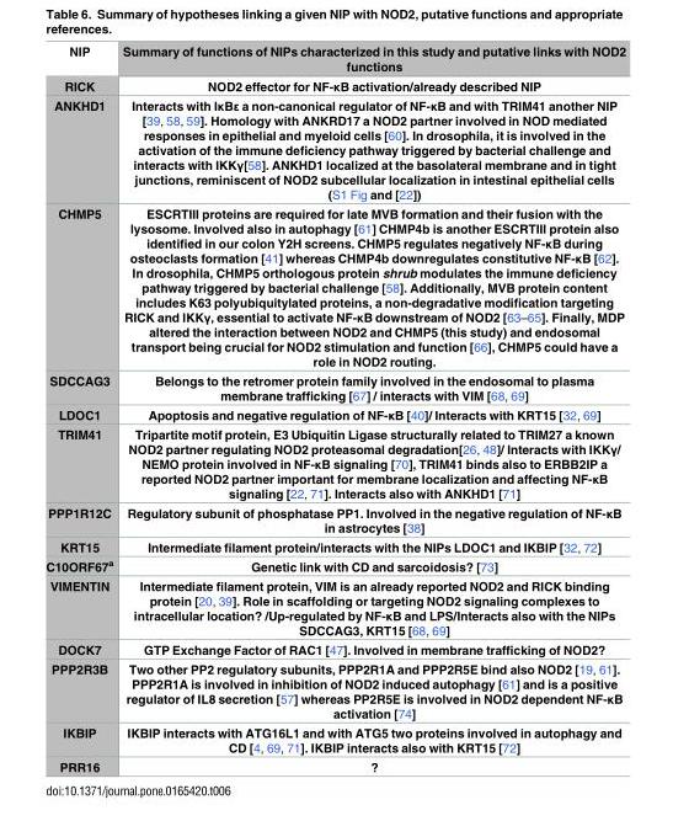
<table><thead><tr><td>NIP</td><td>Summary of functions of NIPs characterized in this study and putative links with NOD2 functions</td></tr></thead><tbody><tr><td>RICK</td><td>NOD2 effector for NF-κB activation/already described NIP</td></tr><tr><td>ANKHD1</td><td>Interacts with IκBε a non-canonical regulator of NF-κB and with TRIM41 another NIP [39, 58, 59]. Homology with ANKRD17 a NOD2 partner involved in NOD mediated responses in epithelial and myeloid cells [60]. In drosophila, it is involved in the activation of the immune deficiency pathway triggered by bacterial challenge and interacts with IKKγ[58]. ANKHD1 localized at the basolateral membrane and in tight junctions, reminiscent of NOD2 subcellular localization in intestinal epithelial cells (S1 Fig and [22])</td></tr><tr><td>CHMP5</td><td>ESCRTIII proteins are required for late MVB formation and their fusion with the lysosome. Involved also in autophagy [61] CHMP4b is another ESCRTIII protein also identified in our colon Y2H screens. CHMP5 regulates negatively NF-κB during osteoclasts formation [41] whereas CHMP4b downregulates constitutive NF-κB [62]. In drosophila, CHMP5 orthologous protein shrub modulates the immune deficiency pathway triggered by bacterial challenge [58]. Additionally, MVB protein content includes K63 polyubiquitylated proteins, a non-degradative modification targeting RICK and IKKγ, essential to activate NF-κB downstream of NOD2 [63–65]. Finally, MDP altered the interaction between NOD2 and CHMP5 (this study) and endosomal transport being crucial for NOD2 stimulation and function [66], CHMP5 could have a role in NOD2 routing.</td></tr><tr><td>SDCCAG3</td><td>Belongs to the retromer protein family involved in the endosomal to plasma membrane trafficking [67] / interacts with VIM [68, 69]</td></tr><tr><td>LDOC1</td><td>Apoptosis and negative regulation of NF-κB [40]/ Interacts with KRT15 [32, 69]</td></tr><tr><td>TRIM41</td><td>Tripartite motif protein, E3 Ubiquitin Ligase structurally related to TRIM27 a known NOD2 partner regulating NOD2 proteasomal degradation[26, 48]/ Interacts with IKKγ/ NEMO protein involved in NF-κB signaling [70], TRIM41 binds also to ERBB2IP a reported NOD2 partner important for membrane localization and affecting NF-κB signaling [22, 71]. Interacts also with ANKHD1 [71]</td></tr><tr><td>PPP1R12C</td><td>Regulatory subunit of phosphatase PP1. Involved in the negative regulation of NF-κB in astrocytes [38]</td></tr><tr><td>KRT15</td><td>Intermediate filament protein/interacts with the NIPs LDOC1 and IKBIP [32, 72]</td></tr><tr><td>C10ORF67<sup>a</sup></td><td>Genetic link with CD and sarcoidosis? [73]</td></tr><tr><td>VIMENTIN</td><td>Intermediate filament protein, VIM is an already reported NOD2 and RICK binding protein [20, 39]. Role in scaffolding or targeting NOD2 signaling complexes to intracellular location? /Up-regulated by NF-κB and LPS/Interacts also with the NIPs SDCCAG3, KRT15 [68, 69]</td></tr><tr><td>DOCK7</td><td>GTP Exchange Factor of RAC1 [47]. Involved in membrane trafficking of NOD2?</td></tr><tr><td>PPP2R3B</td><td>Two other PP2 regulatory subunits, PPP2R1A and PPP2R5E bind also NOD2 [19, 61]. PPP2R1A is involved in inhibition of NOD2 induced autophagy [61] and is a positive regulator of IL8 secretion [57] whereas PP2R5E is involved in NOD2 dependent NF-κB activation [74]</td></tr><tr><td>IKBIP</td><td>IKBIP interacts with ATG16L1 and with ATG5 two proteins involved in autophagy and CD [4, 69, 71]. IKBIP interacts also with KRT15 [72]</td></tr><tr><td>PRR16</td><td>?</td></tr></tbody></table>